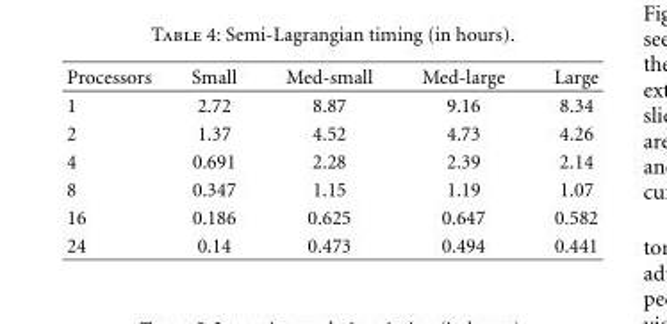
<table><thead><tr><td>Processors</td><td>Small</td><td>Med-small</td><td>Med-large</td><td>Large</td></tr></thead><tbody><tr><td>1</td><td>2.72</td><td>8.87</td><td>9.16</td><td>8.34</td></tr><tr><td>2</td><td>1.37</td><td>4.52</td><td>4.73</td><td>4.26</td></tr><tr><td>4</td><td>0.691</td><td>2.28</td><td>2.39</td><td>2.14</td></tr><tr><td>8</td><td>0.347</td><td>1.15</td><td>1.19</td><td>1.07</td></tr><tr><td>16</td><td>0.186</td><td>0.625</td><td>0.647</td><td>0.582</td></tr><tr><td>24</td><td>0.14</td><td>0.473</td><td>0.494</td><td>0.441</td></tr></tbody></table>